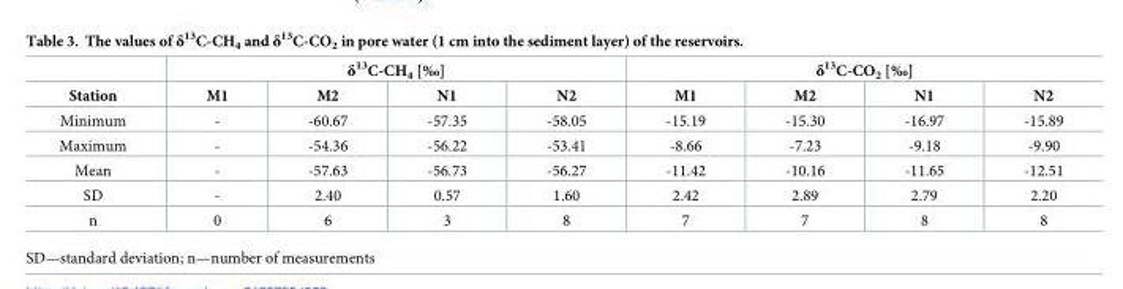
<table><thead><tr><td rowspan="2">Station</td><td colspan="4">δ<sup>13</sup>C-CH<sub>4</sub> [‰]</td><td colspan="4">δ<sup>13</sup>C-CO<sub>2</sub> [‰]</td></tr><tr><td>M1</td><td>M2</td><td>N1</td><td>N2</td><td>M1</td><td>M2</td><td>N1</td><td>N2</td></tr></thead><tbody><tr><td>Minimum</td><td>-</td><td>-60.67</td><td>-57.35</td><td>-58.05</td><td>-15.19</td><td>-15.30</td><td>-16.97</td><td>-15.89</td></tr><tr><td>Maximum</td><td>-</td><td>-54.36</td><td>-56.22</td><td>-53.41</td><td>-8.66</td><td>-7.23</td><td>-9.18</td><td>-9.90</td></tr><tr><td>Mean</td><td>-</td><td>-57.63</td><td>-56.73</td><td>-56.27</td><td>-11.42</td><td>-10.16</td><td>-11.65</td><td>-12.51</td></tr><tr><td>SD</td><td>-</td><td>2.40</td><td>0.57</td><td>1.60</td><td>2.42</td><td>2.89</td><td>2.79</td><td>2.20</td></tr><tr><td>n</td><td>0</td><td>6</td><td>3</td><td>8</td><td>7</td><td>7</td><td>8</td><td>8</td></tr></tbody></table>